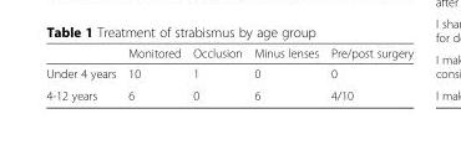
<table><thead><tr><td></td><td>Monitored</td><td>Occlusion</td><td>Minus lenses</td><td>Pre/post surgery</td></tr></thead><tbody><tr><td>Under 4 years</td><td>10</td><td>1</td><td>0</td><td>0</td></tr><tr><td>4-12 years</td><td>6</td><td>0</td><td>6</td><td>4/10</td></tr></tbody></table>